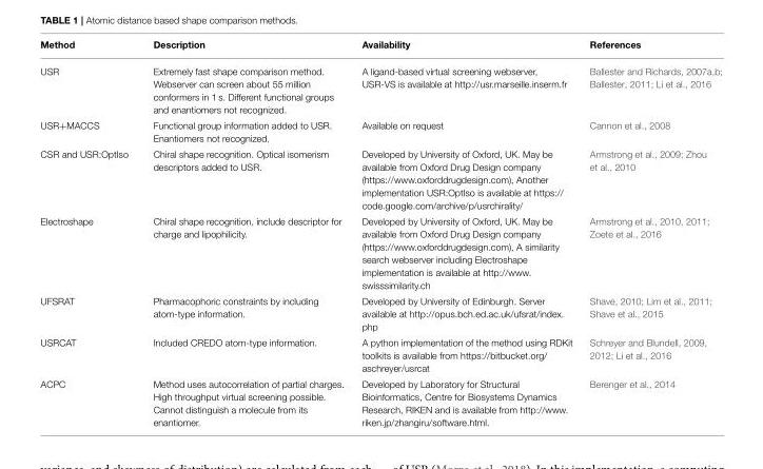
<table><thead><tr><td>Method</td><td>Description</td><td>Availability</td><td>References</td></tr></thead><tbody><tr><td>USR</td><td>Extremely fast shape comparison method. Webserver can screen about 55 million conformers in 1 s. Different functional groups and enantiomers not recognized.</td><td>A ligand-based virtual screening webserver, USR-VS is available at http://usr.marseille.inserm.fr</td><td>Ballester and Richards, 2007a,b; Ballester, 2011; Li et al., 2016</td></tr><tr><td>USR+MACCS</td><td>Functional group information added to USR. Enantiomers not recognized.</td><td>Available on request</td><td>Cannon et al., 2008</td></tr><tr><td>CSR and USR:OptIso</td><td>Chiral shape recognition. Optical isomerism descriptors added to USR.</td><td>Developed by University of Oxford, UK. May be available from Oxford Drug Design company (https://www.oxforddrugdesign.com), Another implementation USR:OptIso is available at https:// code.google.com/archive/p/usrchirality/</td><td>Armstrong et al., 2009; Zhou et al., 2010</td></tr><tr><td>Electroshape</td><td>Chiral shape recognition, include descriptor for charge and lipophilicity.</td><td>Developed by University of Oxford, UK. May be available from Oxford Drug Design company (https://www.oxforddrugdesign.com), A similarity search webserver including Electroshape implementation is available at http://www. swisssimilarity.ch</td><td>Armstrong et al., 2010, 2011; Zoete et al., 2016</td></tr><tr><td>UFSRAT</td><td>Pharmacophoric constraints by including atom-type information.</td><td>Developed by University of Edinburgh. Server available at http://opus.bch.ed.ac.uk/ufsrat/index. php</td><td>Shave, 2010; Lim et al., 2011; Shave et al., 2015</td></tr><tr><td>USRCAT</td><td>Included CREDO atom-type information.</td><td>A python implementation of the method using RDKit toolkits is available from https://bitbucket.org/ aschreyer/usrcat</td><td>Schreyer and Blundell, 2009, 2012; Li et al., 2016</td></tr><tr><td>ACPC</td><td>Method uses autocorrelation of partial charges. High throughput virtual screening possible. Cannot distinguish a molecule from its enantiomer.</td><td>Developed by Laboratory for Structural Bioinformatics, Centre for Biosystems Dynamics Research, RIKEN and is available from http://www. riken.jp/zhangiru/software.html.</td><td>Berenger et al., 2014</td></tr></tbody></table>